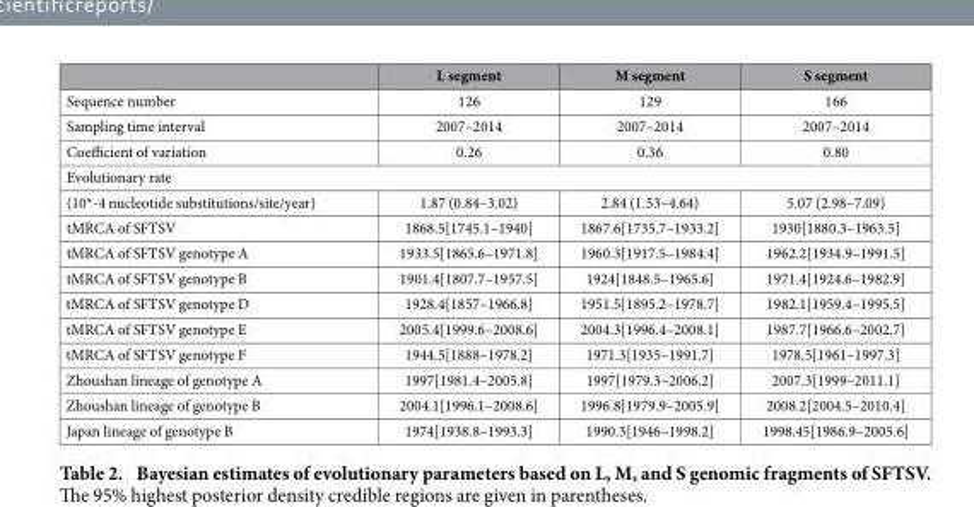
<table><thead><tr><td></td><td>L segment</td><td>M segment</td><td>S segment</td></tr></thead><tbody><tr><td>Sequence number</td><td>126</td><td>129</td><td>166</td></tr><tr><td>Sampling time interval</td><td>2007–2014</td><td>2007–2014</td><td>2007–2014</td></tr><tr><td>Coefficient of variation</td><td>0.26</td><td>0.36</td><td>0.80</td></tr><tr><td colspan="4">Evolutionary rate</td></tr><tr><td>(10*-4 nucleotide substitutions/site/year)</td><td>1.87 (0.84–3.02)</td><td>2.84 (1.53–4.64)</td><td>5.07 (2.98–7.09)</td></tr><tr><td>tMRCA of SFTSV</td><td>1868.5[1745.1–1940]</td><td>1867.6[1735.7–1933.2]</td><td>1930[1880.3–1963.5]</td></tr><tr><td>tMRCA of SFTSV genotype A</td><td>1933.5[1865.6–1971.8]</td><td>1960.3[1917.5–1984.4]</td><td>1962.2[1934.9–1991.5]</td></tr><tr><td>tMRCA of SFTSV genotype B</td><td>1901.4[1807.7–1957.5]</td><td>1924[1848.5–1965.6]</td><td>1971.4[1924.6–1982.9]</td></tr><tr><td>tMRCA of SFTSV genotype D</td><td>1928.4[1857–1966.8]</td><td>1951.5[1895.2–1978.7]</td><td>1982.1[1959.4–1995.5]</td></tr><tr><td>tMRCA of SFTSV genotype E</td><td>2005.4[1999.6–2008.6]</td><td>2004.3[1996.4–2008.1]</td><td>1987.7[1966.6–2002.7]</td></tr><tr><td>tMRCA of SFTSV genotype F</td><td>1944.5[1888–1978.2]</td><td>1971.3[1935–1991.7]</td><td>1978.5[1961–1997.3]</td></tr><tr><td>Zhoushan lineage of genotype A</td><td>1997[1981.4–2005.8]</td><td>1997[1979.3–2006.2]</td><td>2007.3[1999–2011.1]</td></tr><tr><td>Zhoushan lineage of genotype B</td><td>2004.1[1996.1–2008.6]</td><td>1996.8[1979.9–2005.9]</td><td>2008.2[2004.5–2010.4]</td></tr><tr><td>Japan lineage of genotype B</td><td>1974[1938.8–1993.3]</td><td>1990.3[1946–1998.2]</td><td>1998.45[1986.9–2005.6]</td></tr></tbody></table>